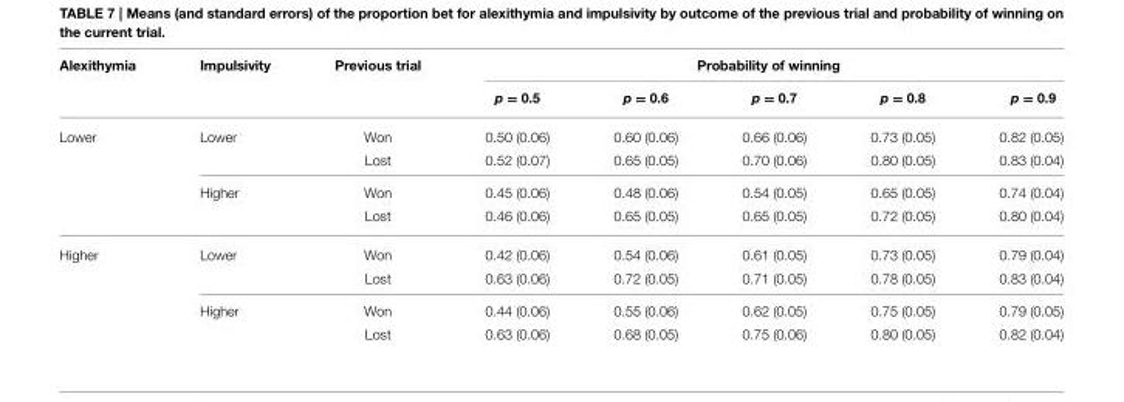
<table><thead><tr><td rowspan="2">Alexithymia</td><td rowspan="2">Impulsivity</td><td rowspan="2">Previous trial</td><td colspan="5">Probability of winning</td></tr><tr><td>p = 0.5</td><td>p = 0.6</td><td>p = 0.7</td><td>p = 0.8</td><td>p = 0.9</td></tr></thead><tbody><tr><td rowspan="4">Lower</td><td>Lower</td><td>Won</td><td>0.50 (0.06)</td><td>0.60 (0.06)</td><td>0.66 (0.06)</td><td>0.73 (0.05)</td><td>0.82 (0.05)</td></tr><tr><td></td><td>Lost</td><td>0.52 (0.07)</td><td>0.65 (0.05)</td><td>0.70 (0.06)</td><td>0.80 (0.05)</td><td>0.83 (0.04)</td></tr><tr><td>Higher</td><td>Won</td><td>0.45 (0.06)</td><td>0.48 (0.06)</td><td>0.54 (0.05)</td><td>0.65 (0.05)</td><td>0.74 (0.04)</td></tr><tr><td></td><td>Lost</td><td>0.46 (0.06)</td><td>0.65 (0.05)</td><td>0.65 (0.05)</td><td>0.72 (0.05)</td><td>0.80 (0.04)</td></tr><tr><td rowspan="4">Higher</td><td>Lower</td><td>Won</td><td>0.42 (0.06)</td><td>0.54 (0.06)</td><td>0.61 (0.05)</td><td>0.73 (0.05)</td><td>0.79 (0.04)</td></tr><tr><td></td><td>Lost</td><td>0.63 (0.06)</td><td>0.72 (0.05)</td><td>0.71 (0.05)</td><td>0.78 (0.05)</td><td>0.83 (0.04)</td></tr><tr><td>Higher</td><td>Won</td><td>0.44 (0.06)</td><td>0.55 (0.06)</td><td>0.62 (0.05)</td><td>0.75 (0.05)</td><td>0.79 (0.05)</td></tr><tr><td></td><td>Lost</td><td>0.63 (0.06)</td><td>0.68 (0.05)</td><td>0.75 (0.06)</td><td>0.80 (0.05)</td><td>0.82 (0.04)</td></tr></tbody></table>